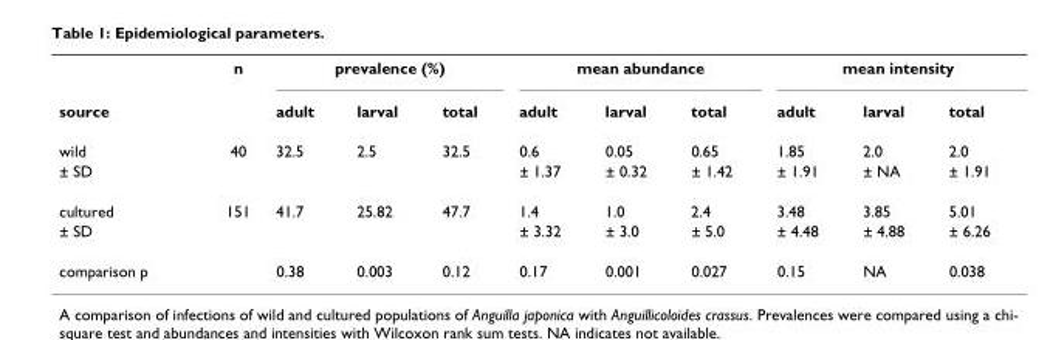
<table><thead><tr><td rowspan="2">source</td><td rowspan="2">n</td><td colspan="3">prevalence (%)</td><td colspan="3">mean abundance</td><td colspan="3">mean intensity</td></tr><tr><td>adult</td><td>larval</td><td>total</td><td>adult</td><td>larval</td><td>total</td><td>adult</td><td>larval</td><td>total</td></tr></thead><tbody><tr><td>wild</td><td>40</td><td>32.5</td><td>2.5</td><td>32.5</td><td>0.6</td><td>0.05</td><td>0.65</td><td>1.85</td><td>2.0</td><td>2.0</td></tr><tr><td>± SD</td><td></td><td></td><td></td><td></td><td>± 1.37</td><td>± 0.32</td><td>± 1.42</td><td>± 1.91</td><td>± NA</td><td>± 1.91</td></tr><tr><td>cultured</td><td>151</td><td>41.7</td><td>25.82</td><td>47.7</td><td>1.4</td><td>1.0</td><td>2.4</td><td>3.48</td><td>3.85</td><td>5.01</td></tr><tr><td>± SD</td><td></td><td></td><td></td><td></td><td>± 3.32</td><td>± 3.0</td><td>± 5.0</td><td>± 4.48</td><td>± 4.88</td><td>± 6.26</td></tr><tr><td>comparison p</td><td></td><td>0.38</td><td>0.003</td><td>0.12</td><td>0.17</td><td>0.001</td><td>0.027</td><td>0.15</td><td>NA</td><td>0.038</td></tr></tbody></table>